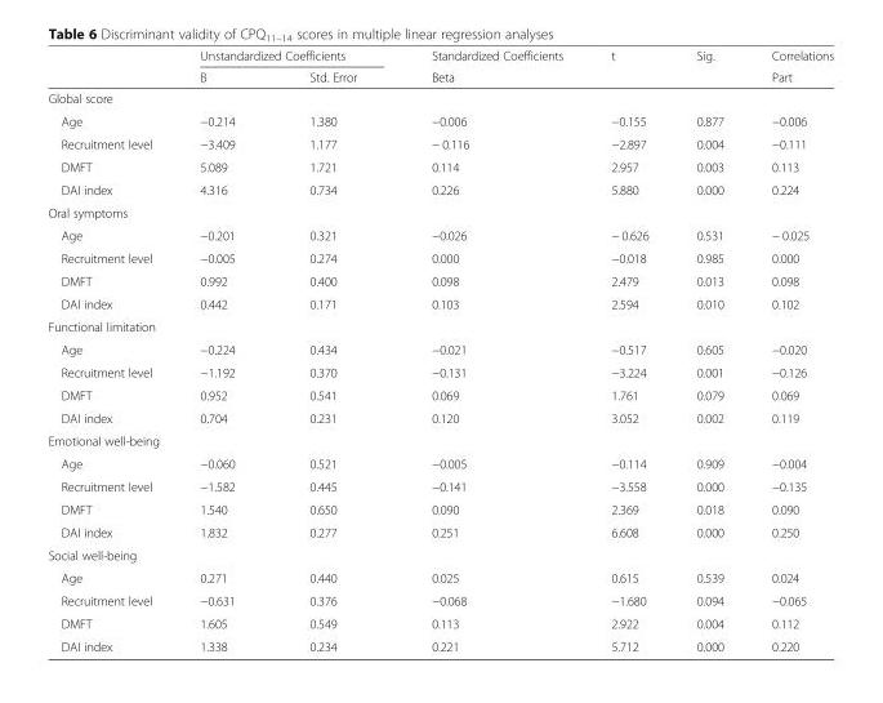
<table><thead><tr><td rowspan="2"></td><td colspan="2">Unstandardized Coefficients</td><td rowspan="2">Standardized Coefficients Beta</td><td rowspan="2">t</td><td rowspan="2">Sig.</td><td rowspan="2">Correlations Part</td></tr><tr><td>B</td><td>Std. Error</td></tr></thead><tbody><tr><td colspan="7">Global score</td></tr><tr><td>Age</td><td>−0.214</td><td>1.380</td><td>−0.006</td><td>−0.155</td><td>0.877</td><td>−0.006</td></tr><tr><td>Recruitment level</td><td>−3.409</td><td>1.177</td><td>− 0.116</td><td>−2.897</td><td>0.004</td><td>−0.111</td></tr><tr><td>DMFT</td><td>5.089</td><td>1.721</td><td>0.114</td><td>2.957</td><td>0.003</td><td>0.113</td></tr><tr><td>DAI index</td><td>4.316</td><td>0.734</td><td>0.226</td><td>5.880</td><td>0.000</td><td>0.224</td></tr><tr><td colspan="7">Oral symptoms</td></tr><tr><td>Age</td><td>−0.201</td><td>0.321</td><td>−0.026</td><td>− 0.626</td><td>0.531</td><td>− 0.025</td></tr><tr><td>Recruitment level</td><td>−0.005</td><td>0.274</td><td>0.000</td><td>−0.018</td><td>0.985</td><td>0.000</td></tr><tr><td>DMFT</td><td>0.992</td><td>0.400</td><td>0.098</td><td>2.479</td><td>0.013</td><td>0.098</td></tr><tr><td>DAI index</td><td>0.442</td><td>0.171</td><td>0.103</td><td>2.594</td><td>0.010</td><td>0.102</td></tr><tr><td colspan="7">Functional limitation</td></tr><tr><td>Age</td><td>−0.224</td><td>0.434</td><td>−0.021</td><td>−0.517</td><td>0.605</td><td>−0.020</td></tr><tr><td>Recruitment level</td><td>−1.192</td><td>0.370</td><td>−0.131</td><td>−3.224</td><td>0.001</td><td>−0.126</td></tr><tr><td>DMFT</td><td>0.952</td><td>0.541</td><td>0.069</td><td>1.761</td><td>0.079</td><td>0.069</td></tr><tr><td>DAI index</td><td>0.704</td><td>0.231</td><td>0.120</td><td>3.052</td><td>0.002</td><td>0.119</td></tr><tr><td colspan="7">Emotional well-being</td></tr><tr><td>Age</td><td>−0.060</td><td>0.521</td><td>−0.005</td><td>−0.114</td><td>0.909</td><td>−0.004</td></tr><tr><td>Recruitment level</td><td>−1.582</td><td>0.445</td><td>−0.141</td><td>−3.558</td><td>0.000</td><td>−0.135</td></tr><tr><td>DMFT</td><td>1.540</td><td>0.650</td><td>0.090</td><td>2.369</td><td>0.018</td><td>0.090</td></tr><tr><td>DAI index</td><td>1.832</td><td>0.277</td><td>0.251</td><td>6.608</td><td>0.000</td><td>0.250</td></tr><tr><td colspan="7">Social well-being</td></tr><tr><td>Age</td><td>0.271</td><td>0.440</td><td>0.025</td><td>0.615</td><td>0.539</td><td>0.024</td></tr><tr><td>Recruitment level</td><td>−0.631</td><td>0.376</td><td>−0.068</td><td>−1.680</td><td>0.094</td><td>−0.065</td></tr><tr><td>DMFT</td><td>1.605</td><td>0.549</td><td>0.113</td><td>2.922</td><td>0.004</td><td>0.112</td></tr><tr><td>DAI index</td><td>1.338</td><td>0.234</td><td>0.221</td><td>5.712</td><td>0.000</td><td>0.220</td></tr></tbody></table>